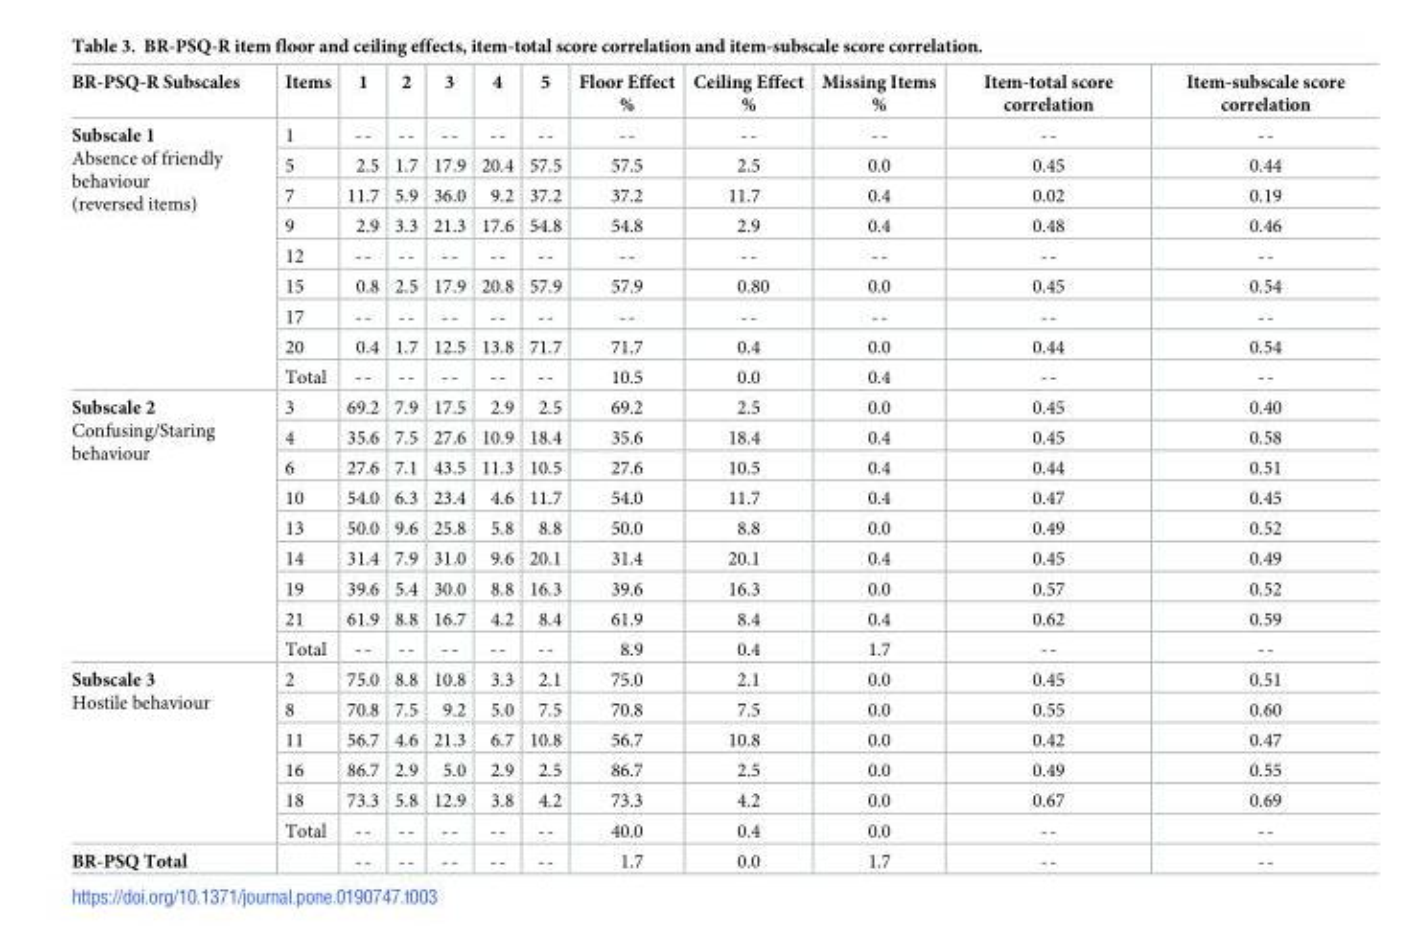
<table><thead><tr><td>BR-PSQ-R Subscales</td><td>Items</td><td>1</td><td>2</td><td>3</td><td>4</td><td>5</td><td>Floor Effect %</td><td>Ceiling Effect %</td><td>Missing Items %</td><td>Item-total score correlation</td><td>Item-subscale score correlation</td></tr></thead><tbody><tr><td rowspan="9">Subscale 1 Absence of friendly behaviour (reversed items)</td><td>1</td><td>--</td><td>--</td><td>--</td><td>--</td><td>--</td><td>--</td><td>--</td><td>--</td><td>--</td><td>--</td></tr><tr><td>5</td><td>2.5</td><td>1.7</td><td>17.9</td><td>20.4</td><td>57.5</td><td>57.5</td><td>2.5</td><td>0.0</td><td>0.45</td><td>0.44</td></tr><tr><td>7</td><td>11.7</td><td>5.9</td><td>36.0</td><td>9.2</td><td>37.2</td><td>37.2</td><td>11.7</td><td>0.4</td><td>0.02</td><td>0.19</td></tr><tr><td>9</td><td>2.9</td><td>3.3</td><td>21.3</td><td>17.6</td><td>54.8</td><td>54.8</td><td>2.9</td><td>0.4</td><td>0.48</td><td>0.46</td></tr><tr><td>12</td><td>--</td><td>--</td><td>--</td><td>--</td><td>--</td><td>--</td><td>--</td><td>--</td><td>--</td><td>--</td></tr><tr><td>15</td><td>0.8</td><td>2.5</td><td>17.9</td><td>20.8</td><td>57.9</td><td>57.9</td><td>0.80</td><td>0.0</td><td>0.45</td><td>0.54</td></tr><tr><td>17</td><td>--</td><td>--</td><td>--</td><td>--</td><td>--</td><td>--</td><td>--</td><td>--</td><td>--</td><td>--</td></tr><tr><td>20</td><td>0.4</td><td>1.7</td><td>12.5</td><td>13.8</td><td>71.7</td><td>71.7</td><td>0.4</td><td>0.0</td><td>0.44</td><td>0.54</td></tr><tr><td>Total</td><td>--</td><td>--</td><td>--</td><td>--</td><td>--</td><td>10.5</td><td>0.0</td><td>0.4</td><td>--</td><td>--</td></tr><tr><td rowspan="9">Subscale 2 Confusing/Staring behaviour</td><td>3</td><td>69.2</td><td>7.9</td><td>17.5</td><td>2.9</td><td>2.5</td><td>69.2</td><td>2.5</td><td>0.0</td><td>0.45</td><td>0.40</td></tr><tr><td>4</td><td>35.6</td><td>7.5</td><td>27.6</td><td>10.9</td><td>18.4</td><td>35.6</td><td>18.4</td><td>0.4</td><td>0.45</td><td>0.58</td></tr><tr><td>6</td><td>27.6</td><td>7.1</td><td>43.5</td><td>11.3</td><td>10.5</td><td>27.6</td><td>10.5</td><td>0.4</td><td>0.44</td><td>0.51</td></tr><tr><td>10</td><td>54.0</td><td>6.3</td><td>23.4</td><td>4.6</td><td>11.7</td><td>54.0</td><td>11.7</td><td>0.4</td><td>0.47</td><td>0.45</td></tr><tr><td>13</td><td>50.0</td><td>9.6</td><td>25.8</td><td>5.8</td><td>8.8</td><td>50.0</td><td>8.8</td><td>0.0</td><td>0.49</td><td>0.52</td></tr><tr><td>14</td><td>31.4</td><td>7.9</td><td>31.0</td><td>9.6</td><td>20.1</td><td>31.4</td><td>20.1</td><td>0.4</td><td>0.45</td><td>0.49</td></tr><tr><td>19</td><td>39.6</td><td>5.4</td><td>30.0</td><td>8.8</td><td>16.3</td><td>39.6</td><td>16.3</td><td>0.0</td><td>0.57</td><td>0.52</td></tr><tr><td>21</td><td>61.9</td><td>8.8</td><td>16.7</td><td>4.2</td><td>8.4</td><td>61.9</td><td>8.4</td><td>0.4</td><td>0.62</td><td>0.59</td></tr><tr><td>Total</td><td>--</td><td>--</td><td>--</td><td>--</td><td>--</td><td>8.9</td><td>0.4</td><td>1.7</td><td>--</td><td>--</td></tr><tr><td rowspan="6">Subscale 3 Hostile behaviour</td><td>2</td><td>75.0</td><td>8.8</td><td>10.8</td><td>3.3</td><td>2.1</td><td>75.0</td><td>2.1</td><td>0.0</td><td>0.45</td><td>0.51</td></tr><tr><td>8</td><td>70.8</td><td>7.5</td><td>9.2</td><td>5.0</td><td>7.5</td><td>70.8</td><td>7.5</td><td>0.0</td><td>0.55</td><td>0.60</td></tr><tr><td>11</td><td>56.7</td><td>4.6</td><td>21.3</td><td>6.7</td><td>10.8</td><td>56.7</td><td>10.8</td><td>0.0</td><td>0.42</td><td>0.47</td></tr><tr><td>16</td><td>86.7</td><td>2.9</td><td>5.0</td><td>2.9</td><td>2.5</td><td>86.7</td><td>2.5</td><td>0.0</td><td>0.49</td><td>0.55</td></tr><tr><td>18</td><td>73.3</td><td>5.8</td><td>12.9</td><td>3.8</td><td>4.2</td><td>73.3</td><td>4.2</td><td>0.0</td><td>0.67</td><td>0.69</td></tr><tr><td>Total</td><td>--</td><td>--</td><td>--</td><td>--</td><td>--</td><td>40.0</td><td>0.4</td><td>0.0</td><td>--</td><td>--</td></tr><tr><td>BR-PSQ Total</td><td></td><td>--</td><td>--</td><td>--</td><td>--</td><td>--</td><td>1.7</td><td>0.0</td><td>1.7</td><td>--</td><td>--</td></tr></tbody></table>